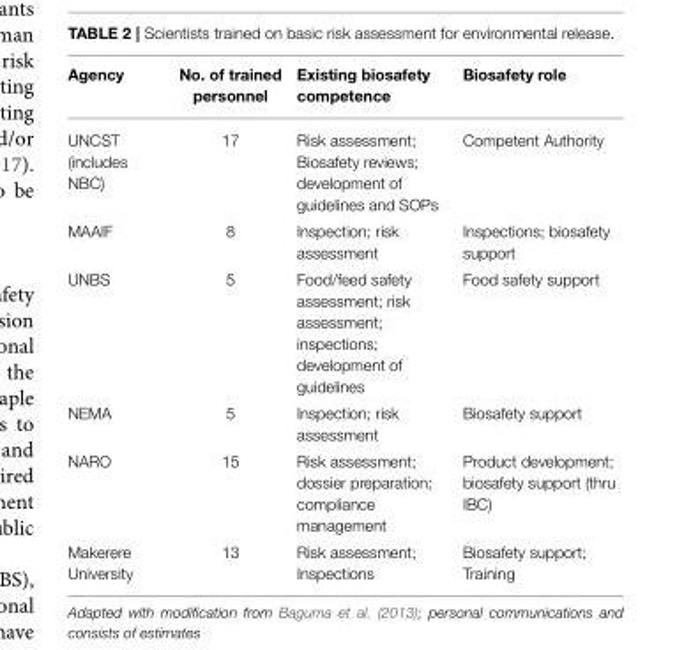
<table><thead><tr><td>Agency</td><td>No. of trained personnel</td><td>Existing biosafety competence</td><td>Biosafety role</td></tr></thead><tbody><tr><td>UNCST (includes NBC)</td><td>17</td><td>Risk assessment; Biosafety reviews; development of guidelines and SOPs</td><td>Competent Authority</td></tr><tr><td>MAAIF</td><td>8</td><td>Inspection; risk assessment</td><td>Inspections; biosafety support</td></tr><tr><td>UNBS</td><td>5</td><td>Food/feed safety assessment; risk assessment; inspections; development of guidelines</td><td>Food safety support</td></tr><tr><td>NEMA</td><td>5</td><td>Inspection; risk assessment</td><td>Biosafety support</td></tr><tr><td>NARO</td><td>15</td><td>Risk assessment; dossier preparation; compliance management</td><td>Product development; biosafety support (thru IBC)</td></tr><tr><td>Makerere University</td><td>13</td><td>Risk assessment; Inspections</td><td>Biosafety support; Training</td></tr></tbody></table>